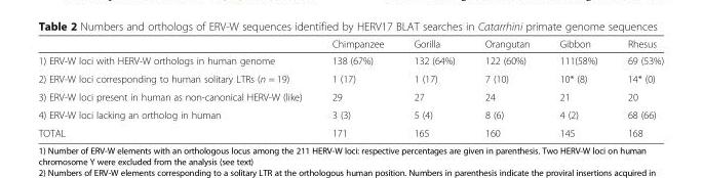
<table><thead><tr><td></td><td>Chimpanzee</td><td>Gorilla</td><td>Orangutan</td><td>Gibbon</td><td>Rhesus</td></tr></thead><tbody><tr><td>1) ERV-W loci with HERV-W orthologs in human genome</td><td>138 (67%)</td><td>132 (64%)</td><td>122 (60%)</td><td>111(58%)</td><td>69 (53%)</td></tr><tr><td>2) ERV-W loci corresponding to human solitary LTRs (n = 19)</td><td>1 (17)</td><td>1 (17)</td><td>7 (10)</td><td>10* (8)</td><td>14* (0)</td></tr><tr><td>3) ERV-W loci present in human as non-canonical HERV-W (like)</td><td>29</td><td>27</td><td>24</td><td>21</td><td>20</td></tr><tr><td>4) ERV-W loci lacking an ortholog in human</td><td>3 (3)</td><td>5 (4)</td><td>8 (6)</td><td>4 (2)</td><td>68 (66)</td></tr><tr><td>TOTAL</td><td>171</td><td>165</td><td>160</td><td>145</td><td>168</td></tr></tbody></table>